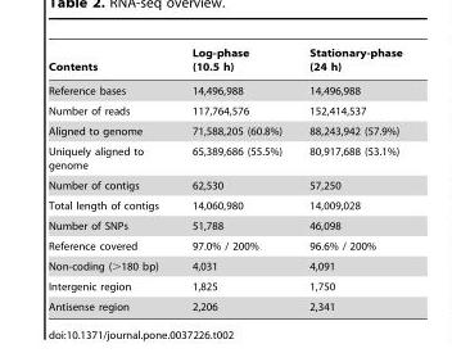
<table><thead><tr><td>Contents</td><td>Log-phase (10.5 h)</td><td>Stationary-phase (24 h)</td></tr></thead><tbody><tr><td>Reference bases</td><td>14,496,988</td><td>14,496,988</td></tr><tr><td>Number of reads</td><td>117,764,576</td><td>152,414,537</td></tr><tr><td>Aligned to genome</td><td>71,588,205 (60.8%)</td><td>88,243,942 (57.9%)</td></tr><tr><td>Uniquely aligned to genome</td><td>65,389,686 (55.5%)</td><td>80,917,688 (53.1%)</td></tr><tr><td>Number of contigs</td><td>62,530</td><td>57,250</td></tr><tr><td>Total length of contigs</td><td>14,060,980</td><td>14,009,028</td></tr><tr><td>Number of SNPs</td><td>51,788</td><td>46,098</td></tr><tr><td>Reference covered</td><td>97.0% / 200%</td><td>96.6% / 200%</td></tr><tr><td>Non-coding (&gt;180 bp)</td><td>4,031</td><td>4,091</td></tr><tr><td>Intergenic region</td><td>1,825</td><td>1,750</td></tr><tr><td>Antisense region</td><td>2,206</td><td>2,341</td></tr></tbody></table>